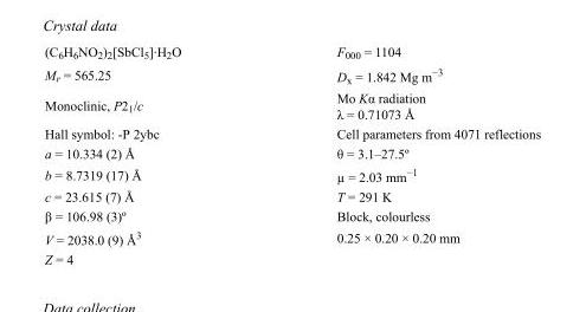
<table><tbody><tr><td>(C<sub>6</sub>H<sub>6</sub>NO<sub>2</sub>)<sub>2</sub>[SbCl<sub>5</sub>]·H<sub>2</sub>O</td><td>F000 = 1104</td></tr><tr><td>M<sub>r</sub> = 565.25</td><td>D<sub>x</sub> = 1.842 Mg m<sup>−3</sup></td></tr><tr><td>Monoclinic, P2<sub>1</sub>/c</td><td>Mo Kα radiation λ = 0.71073 Å</td></tr><tr><td>Hall symbol: -P 2ybc</td><td>Cell parameters from 4071 reflections</td></tr><tr><td>a = 10.334 (2) Å</td><td>θ = 3.1–27.5º</td></tr><tr><td>b = 8.7319 (17) Å</td><td>µ = 2.03 mm<sup>−1</sup></td></tr><tr><td>c = 23.615 (7) Å</td><td>T = 291 K</td></tr><tr><td>β = 106.98 (3)º</td><td>Block, colourless</td></tr><tr><td>V = 2038.0 (9) Å<sup>3</sup></td><td>0.25 × 0.20 × 0.20 mm</td></tr><tr><td>Z = 4</td><td></td></tr></tbody></table>